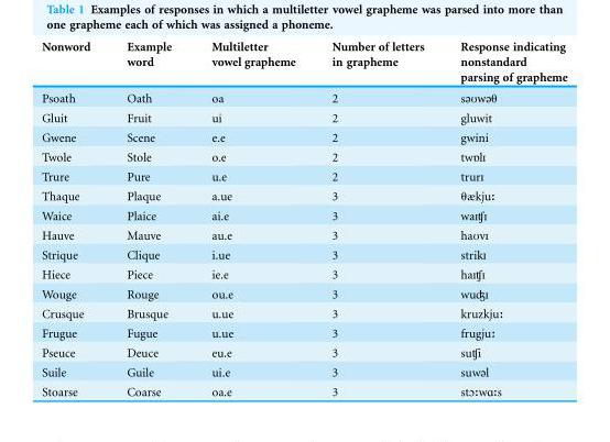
<table><thead><tr><td>Nonword</td><td>Example word</td><td>Multiletter vowel grapheme</td><td>Number of letters in grapheme</td><td>Response indicating nonstandard parsing of grapheme</td></tr></thead><tbody><tr><td>Psoath</td><td>Oath</td><td>oa</td><td>2</td><td>səʊwəθ</td></tr><tr><td>Gluit</td><td>Fruit</td><td>ui</td><td>2</td><td>gluwit</td></tr><tr><td>Gwene</td><td>Scene</td><td>e.e</td><td>2</td><td>gwini</td></tr><tr><td>Twole</td><td>Stole</td><td>o.e</td><td>2</td><td>twɒlɪ</td></tr><tr><td>Trure</td><td>Pure</td><td>u.e</td><td>2</td><td>trurɪ</td></tr><tr><td>Thaque</td><td>Plaque</td><td>a.ue</td><td>3</td><td>θækjuː</td></tr><tr><td>Waice</td><td>Plaice</td><td>ai.e</td><td>3</td><td>waɪʧɪ</td></tr><tr><td>Hauve</td><td>Mauve</td><td>au.e</td><td>3</td><td>haʊvɪ</td></tr><tr><td>Strique</td><td>Clique</td><td>i.ue</td><td>3</td><td>strikɪ</td></tr><tr><td>Hiece</td><td>Piece</td><td>ie.e</td><td>3</td><td>haɪʧɪ</td></tr><tr><td>Wouge</td><td>Rouge</td><td>ou.e</td><td>3</td><td>wuʤɪ</td></tr><tr><td>Crusque</td><td>Brusque</td><td>u.ue</td><td>3</td><td>kruzkjuː</td></tr><tr><td>Frugue</td><td>Fugue</td><td>u.ue</td><td>3</td><td>frugjuː</td></tr><tr><td>Pseuce</td><td>Deuce</td><td>eu.e</td><td>3</td><td>suʧi</td></tr><tr><td>Suile</td><td>Guile</td><td>ui.e</td><td>3</td><td>suwəl</td></tr><tr><td>Stoarse</td><td>Coarse</td><td>oa.e</td><td>3</td><td>stɔːwɑːs</td></tr></tbody></table>